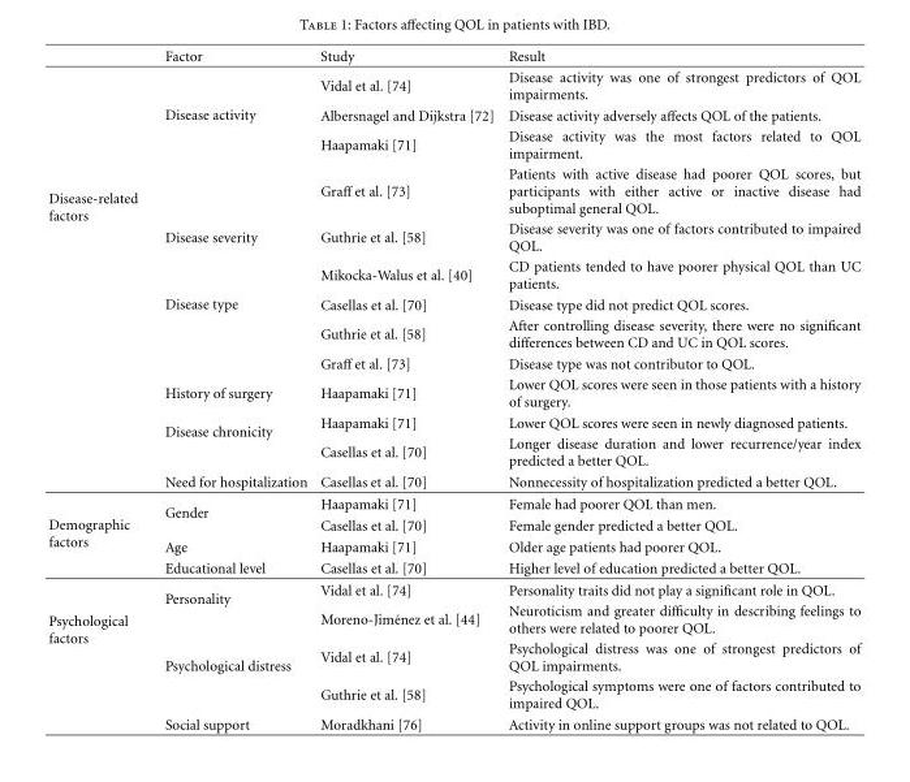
<table><thead><tr><td></td><td>Factor</td><td>Study</td><td>Result</td></tr></thead><tbody><tr><td rowspan="13">Disease-related factors</td><td rowspan="4">Disease activity</td><td>Vidal et al. [74]</td><td>Disease activity was one of strongest predictors of QOL impairments.</td></tr><tr><td>Albersnagel and Dijkstra [72]</td><td>Disease activity adversely affects QOL of the patients.</td></tr><tr><td>Haapamaki [71]</td><td>Disease activity was the most factors related to QOL impairment.</td></tr><tr><td>Graff et al. [73]</td><td>Patients with active disease had poorer QOL scores, but participants with either active or inactive disease had suboptimal general QOL.</td></tr><tr><td>Disease severity</td><td>Guthrie et al. [58]</td><td>Disease severity was one of factors contributed to impaired QOL.</td></tr><tr><td rowspan="4">Disease type</td><td>Mikocka-Walus et al. [40]</td><td>CD patients tended to have poorer physical QOL than UC patients.</td></tr><tr><td>Casellas et al. [70]</td><td>Disease type did not predict QOL scores.</td></tr><tr><td>Guthrie et al. [58]</td><td>After controlling disease severity, there were no significant differences between CD and UC in QOL scores.</td></tr><tr><td>Graff et al. [73]</td><td>Disease type was not contributor to QOL.</td></tr><tr><td>History of surgery</td><td>Haapamaki [71]</td><td>Lower QOL scores were seen in those patients with a history of surgery.</td></tr><tr><td rowspan="2">Disease chronicity</td><td>Haapamaki [71]</td><td>Lower QOL scores were seen in newly diagnosed patients.</td></tr><tr><td>Casellas et al. [70]</td><td>Longer disease duration and lower recurrence/year index predicted a better QOL.</td></tr><tr><td>Need for hospitalization</td><td>Casellas et al. [70]</td><td>Nonnecessity of hospitalization predicted a better QOL.</td></tr><tr><td rowspan="4">Demographic factors</td><td rowspan="2">Gender</td><td>Haapamaki [71]</td><td>Female had poorer QOL than men.</td></tr><tr><td>Casellas et al. [70]</td><td>Female gender predicted a better QOL.</td></tr><tr><td>Age</td><td>Haapamaki [71]</td><td>Older age patients had poorer QOL.</td></tr><tr><td>Educational level</td><td>Casellas et al. [70]</td><td>Higher level of education predicted a better QOL.</td></tr><tr><td rowspan="5">Psychological factors</td><td rowspan="2">Personality</td><td>Vidal et al. [74]</td><td>Personality traits did not play a significant role in QOL.</td></tr><tr><td>Moreno-Jim´enez et al. [44]</td><td>Neuroticism and greater difficulty in describing feelings to others were related to poorer QOL.</td></tr><tr><td rowspan="2">Psychological distress</td><td>Vidal et al. [74]</td><td>Psychological distress was one of strongest predictors of QOL impairments.</td></tr><tr><td>Guthrie et al. [58]</td><td>Psychological symptoms were one of factors contributed to impaired QOL.</td></tr><tr><td>Social support</td><td>Moradkhani [76]</td><td>Activity in online support groups was not related to QOL.</td></tr></tbody></table>